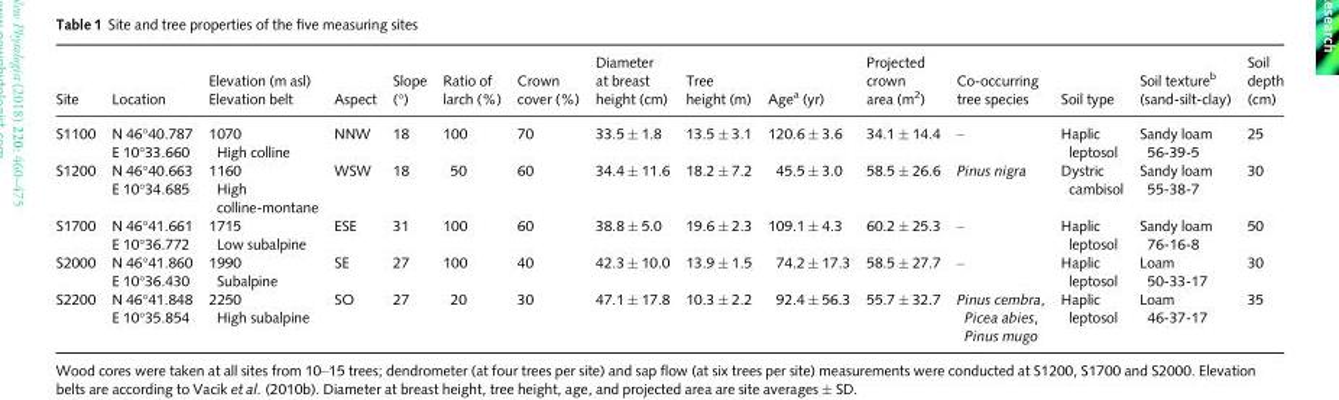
<table><thead><tr><td>Site</td><td>Location</td><td>Elevation (m asl) Elevation belt</td><td>Aspect</td><td>Slope (°)</td><td>Ratio of larch (%)</td><td>Crown cover (%)</td><td>Diameter at breast height (cm)</td><td>Tree height (m)</td><td>Age<sup>a</sup> (yr)</td><td>Projected crown area (m<sup>2</sup>)</td><td>Co-occurring tree species</td><td>Soil type</td><td>Soil texture<sup>b</sup> (sand-silt-clay)</td><td>Soil depth (cm)</td></tr></thead><tbody><tr><td>S1100</td><td>N 46°40.787 E 10°33.660</td><td>1070 High colline</td><td>NNW</td><td>18</td><td>100</td><td>70</td><td>33.5 ± 1.8</td><td>13.5 ± 3.1</td><td>120.6 ± 3.6</td><td>34.1 ± 14.4</td><td>–</td><td>Haplic leptosol</td><td>Sandy loam 56-39-5</td><td>25</td></tr><tr><td>S1200</td><td>N 46°40.663 E 10°34.685</td><td>1160 High colline-montane</td><td>WSW</td><td>18</td><td>50</td><td>60</td><td>34.4 ± 11.6</td><td>18.2 ± 7.2</td><td>45.5 ± 3.0</td><td>58.5 ± 26.6</td><td>Pinus nigra</td><td>Dystric cambisol</td><td>Sandy loam 55-38-7</td><td>30</td></tr><tr><td>S1700</td><td>N 46°41.661 E 10°36.772</td><td>1715 Low subalpine</td><td>ESE</td><td>31</td><td>100</td><td>60</td><td>38.8 ± 5.0</td><td>19.6 ± 2.3</td><td>109.1 ± 4.3</td><td>60.2 ± 25.3</td><td>–</td><td>Haplic leptosol</td><td>Sandy loam 76-16-8</td><td>50</td></tr><tr><td>S2000</td><td>N 46°41.860 E 10°36.430</td><td>1990 Subalpine</td><td>SE</td><td>27</td><td>100</td><td>40</td><td>42.3 ± 10.0</td><td>13.9 ± 1.5</td><td>74.2 ± 17.3</td><td>58.5 ± 27.7</td><td>–</td><td>Haplic leptosol</td><td>Loam 50-33-17</td><td>30</td></tr><tr><td>S2200</td><td>N 46°41.848 E 10°35.854</td><td>2250 High subalpine</td><td>SO</td><td>27</td><td>20</td><td>30</td><td>47.1 ± 17.8</td><td>10.3 ± 2.2</td><td>92.4 ± 56.3</td><td>55.7 ± 32.7</td><td>Pinus cembra, Picea abies, Pinus mugo</td><td>Haplic leptosol</td><td>Loam 46-37-17</td><td>35</td></tr></tbody></table>